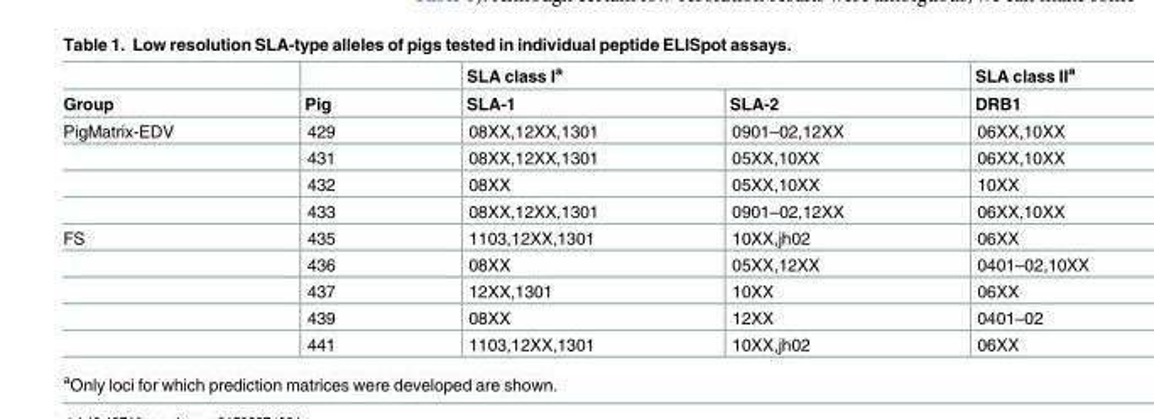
<table><thead><tr><td rowspan="2">Group</td><td rowspan="2">Pig</td><td colspan="2">SLA class I<sup>a</sup></td><td rowspan="2">SLA class II<sup>a</sup> DRB1</td></tr><tr><td>SLA-1</td><td>SLA-2</td></tr></thead><tbody><tr><td rowspan="4">PigMatrix-EDV</td><td>429</td><td>08XX,12XX,1301</td><td>0901–02,12XX</td><td>06XX,10XX</td></tr><tr><td>431</td><td>08XX,12XX,1301</td><td>05XX,10XX</td><td>06XX,10XX</td></tr><tr><td>432</td><td>08XX</td><td>05XX,10XX</td><td>10XX</td></tr><tr><td>433</td><td>08XX,12XX,1301</td><td>0901–02,12XX</td><td>06XX,10XX</td></tr><tr><td rowspan="5">FS</td><td>435</td><td>1103,12XX,1301</td><td>10XX,jh02</td><td>06XX</td></tr><tr><td>436</td><td>08XX</td><td>05XX,12XX</td><td>0401–02,10XX</td></tr><tr><td>437</td><td>12XX,1301</td><td>10XX</td><td>06XX</td></tr><tr><td>439</td><td>08XX</td><td>12XX</td><td>0401–02</td></tr><tr><td>441</td><td>1103,12XX,1301</td><td>10XX,jh02</td><td>06XX</td></tr></tbody></table>